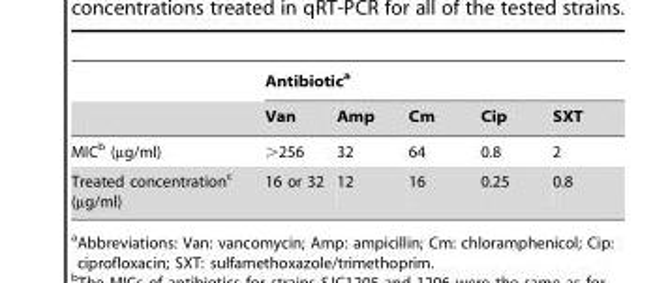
<table><thead><tr><td rowspan="2"></td><td colspan="5">Antibiotic<sup>a</sup></td></tr><tr><td>Van</td><td>Amp</td><td>Cm</td><td>Cip</td><td>SXT</td></tr></thead><tbody><tr><td>MIC<sup>b</sup> (µg/ml)</td><td>&gt;256</td><td>32</td><td>64</td><td>0.8</td><td>2</td></tr><tr><td>Treated concentration<sup>c</sup> (µg/ml)</td><td>16 or 32</td><td>12</td><td>16</td><td>0.25</td><td>0.8</td></tr></tbody></table>